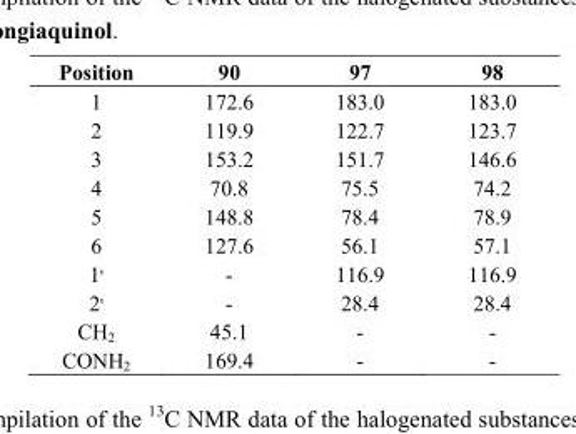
<table><thead><tr><td>Position</td><td>90</td><td>97</td><td>98</td></tr></thead><tbody><tr><td>1</td><td>172.6</td><td>183.0</td><td>183.0</td></tr><tr><td>2</td><td>119.9</td><td>122.7</td><td>123.7</td></tr><tr><td>3</td><td>153.2</td><td>151.7</td><td>146.6</td></tr><tr><td>4</td><td>70.8</td><td>75.5</td><td>74.2</td></tr><tr><td>5</td><td>148.8</td><td>78.4</td><td>78.9</td></tr><tr><td>6</td><td>127.6</td><td>56.1</td><td>57.1</td></tr><tr><td>1&#x27;</td><td>-</td><td>116.9</td><td>116.9</td></tr><tr><td>2&#x27;</td><td>-</td><td>28.4</td><td>28.4</td></tr><tr><td>CH<sub>2</sub></td><td>45.1</td><td>-</td><td>-</td></tr><tr><td>CONH<sub>2</sub></td><td>169.4</td><td>-</td><td>-</td></tr></tbody></table>